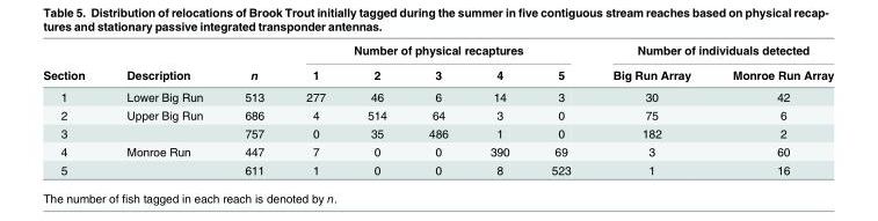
<table><thead><tr><td rowspan="2">Section</td><td rowspan="2">Description</td><td rowspan="2">n</td><td colspan="5">Number of physical recaptures</td><td colspan="2">Number of individuals detected</td></tr><tr><td>1</td><td>2</td><td>3</td><td>4</td><td>5</td><td>Big Run Array</td><td>Monroe Run Array</td></tr></thead><tbody><tr><td>1</td><td>Lower Big Run</td><td>513</td><td>277</td><td>46</td><td>6</td><td>14</td><td>3</td><td>30</td><td>42</td></tr><tr><td>2</td><td>Upper Big Run</td><td>686</td><td>4</td><td>514</td><td>64</td><td>3</td><td>0</td><td>75</td><td>6</td></tr><tr><td>3</td><td></td><td>757</td><td>0</td><td>35</td><td>486</td><td>1</td><td>0</td><td>182</td><td>2</td></tr><tr><td>4</td><td>Monroe Run</td><td>447</td><td>7</td><td>0</td><td>0</td><td>390</td><td>69</td><td>3</td><td>60</td></tr><tr><td>5</td><td></td><td>611</td><td>1</td><td>0</td><td>0</td><td>8</td><td>523</td><td>1</td><td>16</td></tr></tbody></table>